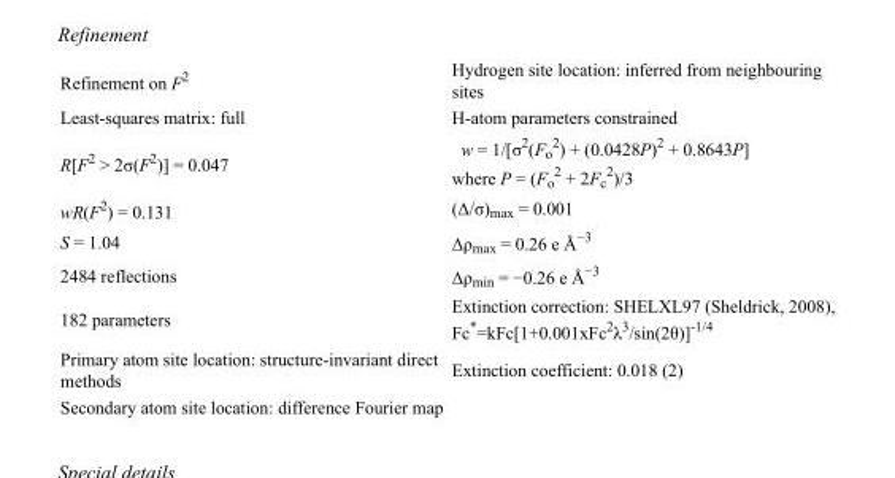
<table><tbody><tr><td>Refinement on F<sup>2</sup></td><td>Hydrogen site location: inferred from neighbouring sites</td></tr><tr><td>Least-squares matrix: full</td><td>H-atom parameters constrained</td></tr><tr><td>R[F<sup>2</sup> &gt; 2σ(F<sup>2</sup>)] = 0.047</td><td>w = 1/[σ<sup>2</sup>(F<sub>o</sub> <sup>2</sup>) + (0.0428P)<sup>2</sup> + 0.8643P] where P = (F<sub>o</sub> <sup>2</sup> + 2F<sub>c</sub> <sup>2</sup>)/3</td></tr><tr><td>wR(F<sup>2</sup>) = 0.131</td><td>(Δ/σ)<sub>max</sub> = 0.001</td></tr><tr><td>S = 1.04</td><td>Δρ<sub>max</sub> = 0.26 e Å<sup>−3</sup></td></tr><tr><td>2484 reflections</td><td>Δρ<sub>min</sub> = −0.26 e Å<sup>−3</sup></td></tr><tr><td>182 parameters</td><td>Extinction correction: SHELXL97 (Sheldrick, 2008), Fc*=kFc[1+0.001xFc<sup>2</sup>λ<sup>3</sup>/sin(2θ)]<sup>-1/4</sup></td></tr><tr><td>Primary atom site location: structure-invariant direct methods</td><td>Extinction coefficient: 0.018 (2)</td></tr><tr><td>Secondary atom site location: difference Fourier map</td><td></td></tr></tbody></table>